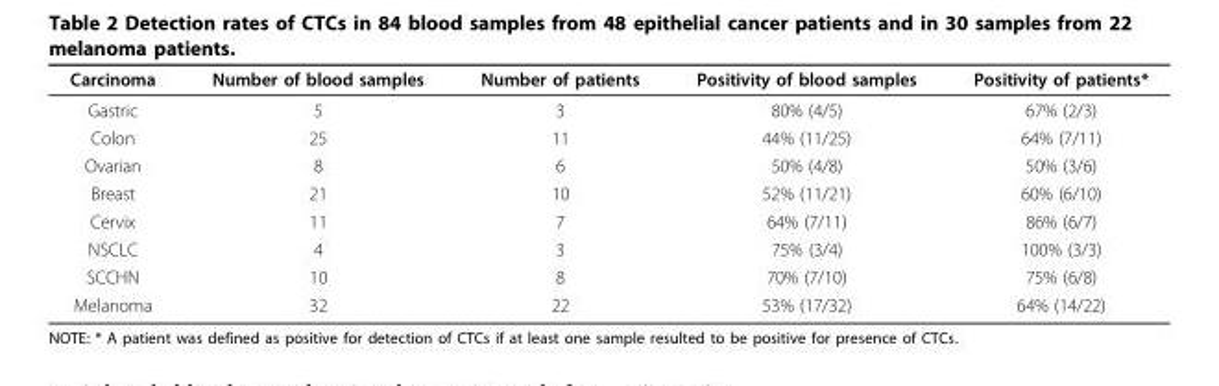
<table><thead><tr><td>Carcinoma</td><td>Number of blood samples</td><td>Number of patients</td><td>Positivity of blood samples</td><td>Positivity of patients*</td></tr></thead><tbody><tr><td>Gastric</td><td>5</td><td>3</td><td>80% (4/5)</td><td>67% (2/3)</td></tr><tr><td>Colon</td><td>25</td><td>11</td><td>44% (11/25)</td><td>64% (7/11)</td></tr><tr><td>Ovarian</td><td>8</td><td>6</td><td>50% (4/8)</td><td>50% (3/6)</td></tr><tr><td>Breast</td><td>21</td><td>10</td><td>52% (11/21)</td><td>60% (6/10)</td></tr><tr><td>Cervix</td><td>11</td><td>7</td><td>64% (7/11)</td><td>86% (6/7)</td></tr><tr><td>NSCLC</td><td>4</td><td>3</td><td>75% (3/4)</td><td>100% (3/3)</td></tr><tr><td>SCCHN</td><td>10</td><td>8</td><td>70% (7/10)</td><td>75% (6/8)</td></tr><tr><td>Melanoma</td><td>32</td><td>22</td><td>53% (17/32)</td><td>64% (14/22)</td></tr></tbody></table>